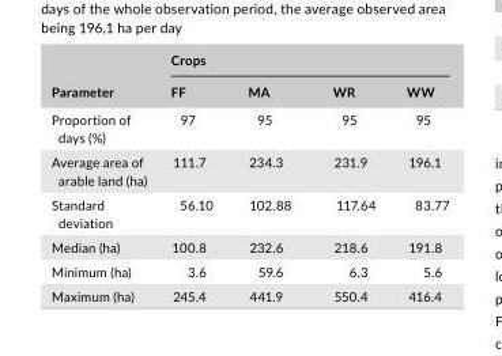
<table><thead><tr><td rowspan="2">Parameter</td><td colspan="4">Crops</td></tr><tr><td>FF</td><td>MA</td><td>WR</td><td>WW</td></tr></thead><tbody><tr><td>Proportion of days (%)</td><td>97</td><td>95</td><td>95</td><td>95</td></tr><tr><td>Average area of arable land (ha)</td><td>111.7</td><td>234.3</td><td>231.9</td><td>196.1</td></tr><tr><td>Standard deviation</td><td>56.10</td><td>102.88</td><td>117.64</td><td>83.77</td></tr><tr><td>Median (ha)</td><td>100.8</td><td>232.6</td><td>218.6</td><td>191.8</td></tr><tr><td>Minimum (ha)</td><td>3.6</td><td>59.6</td><td>6.3</td><td>5.6</td></tr><tr><td>Maximum (ha)</td><td>245.4</td><td>441.9</td><td>550.4</td><td>416.4</td></tr></tbody></table>